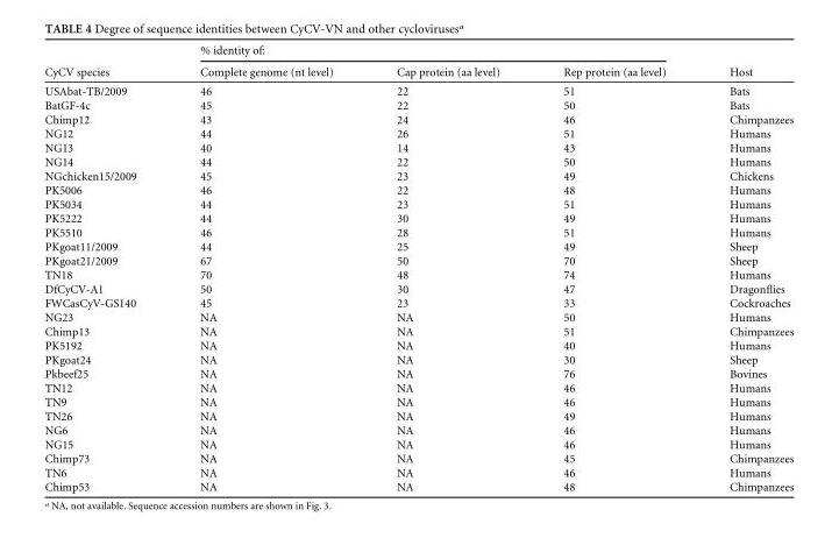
<table><thead><tr><td rowspan="2">CyCV species</td><td colspan="3">% identity of:</td><td rowspan="2">Host</td></tr><tr><td>Complete genome (nt level)</td><td>Cap protein (aa level)</td><td>Rep protein (aa level)</td></tr></thead><tbody><tr><td>USAbat-TB/2009</td><td>46</td><td>22</td><td>51</td><td>Bats</td></tr><tr><td>BatGF-4c</td><td>45</td><td>22</td><td>50</td><td>Bats</td></tr><tr><td>Chimp12</td><td>43</td><td>24</td><td>46</td><td>Chimpanzees</td></tr><tr><td>NG12</td><td>44</td><td>26</td><td>51</td><td>Humans</td></tr><tr><td>NG13</td><td>40</td><td>14</td><td>43</td><td>Humans</td></tr><tr><td>NG14</td><td>44</td><td>22</td><td>50</td><td>Humans</td></tr><tr><td>NGchicken15/2009</td><td>45</td><td>23</td><td>49</td><td>Chickens</td></tr><tr><td>PK5006</td><td>46</td><td>22</td><td>48</td><td>Humans</td></tr><tr><td>PK5034</td><td>44</td><td>23</td><td>51</td><td>Humans</td></tr><tr><td>PK5222</td><td>44</td><td>30</td><td>49</td><td>Humans</td></tr><tr><td>PK5510</td><td>46</td><td>28</td><td>51</td><td>Humans</td></tr><tr><td>PKgoat11/2009</td><td>44</td><td>25</td><td>49</td><td>Sheep</td></tr><tr><td>PKgoat21/2009</td><td>67</td><td>50</td><td>70</td><td>Sheep</td></tr><tr><td>TN18</td><td>70</td><td>48</td><td>74</td><td>Humans</td></tr><tr><td>DfCyCV-A1</td><td>50</td><td>30</td><td>47</td><td>Dragonflies</td></tr><tr><td>FWCasCyV-GS140</td><td>45</td><td>23</td><td>33</td><td>Cockroaches</td></tr><tr><td>NG23</td><td>NA</td><td>NA</td><td>50</td><td>Humans</td></tr><tr><td>Chimp13</td><td>NA</td><td>NA</td><td>51</td><td>Chimpanzees</td></tr><tr><td>PK5192</td><td>NA</td><td>NA</td><td>40</td><td>Humans</td></tr><tr><td>PKgoat24</td><td>NA</td><td>NA</td><td>30</td><td>Sheep</td></tr><tr><td>Pkbeef25</td><td>NA</td><td>NA</td><td>76</td><td>Bovines</td></tr><tr><td>TN12</td><td>NA</td><td>NA</td><td>46</td><td>Humans</td></tr><tr><td>TN9</td><td>NA</td><td>NA</td><td>46</td><td>Humans</td></tr><tr><td>TN26</td><td>NA</td><td>NA</td><td>49</td><td>Humans</td></tr><tr><td>NG6</td><td>NA</td><td>NA</td><td>46</td><td>Humans</td></tr><tr><td>NG15</td><td>NA</td><td>NA</td><td>46</td><td>Humans</td></tr><tr><td>Chimp73</td><td>NA</td><td>NA</td><td>45</td><td>Chimpanzees</td></tr><tr><td>TN6</td><td>NA</td><td>NA</td><td>46</td><td>Humans</td></tr><tr><td>Chimp53</td><td>NA</td><td>NA</td><td>48</td><td>Chimpanzees</td></tr></tbody></table>